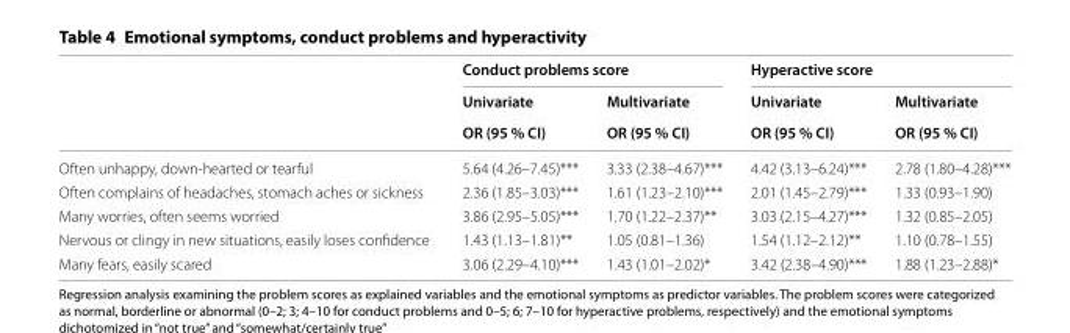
<table><thead><tr><td rowspan="3"></td><td colspan="2">Conduct problems score</td><td colspan="2">Hyperactive score</td></tr><tr><td rowspan="2">Univariate OR (95 % CI)</td><td rowspan="2">Multivariate OR (95 % CI)</td><td rowspan="2">Univariate OR (95 % CI)</td><td rowspan="2">Multivariate OR (95 % CI)</td></tr><tr></tr></thead><tbody><tr><td>Often unhappy, down-hearted or tearful</td><td>5.64 (4.26–7.45)***</td><td>3.33 (2.38–4.67)***</td><td>4.42 (3.13–6.24)***</td><td>2.78 (1.80–4.28)***</td></tr><tr><td>Often complains of headaches, stomach aches or sickness</td><td>2.36 (1.85–3.03)***</td><td>1.61 (1.23–2.10)***</td><td>2.01 (1.45–2.79)***</td><td>1.33 (0.93–1.90)</td></tr><tr><td>Many worries, often seems worried</td><td>3.86 (2.95–5.05)***</td><td>1.70 (1.22–2.37)**</td><td>3.03 (2.15–4.27)***</td><td>1.32 (0.85–2.05)</td></tr><tr><td>Nervous or clingy in new situations, easily loses confidence</td><td>1.43 (1.13–1.81)**</td><td>1.05 (0.81–1.36)</td><td>1.54 (1.12–2.12)**</td><td>1.10 (0.78–1.55)</td></tr><tr><td>Many fears, easily scared</td><td>3.06 (2.29–4.10)***</td><td>1.43 (1.01–2.02)*</td><td>3.42 (2.38–4.90)***</td><td>1.88 (1.23–2.88)*</td></tr></tbody></table>